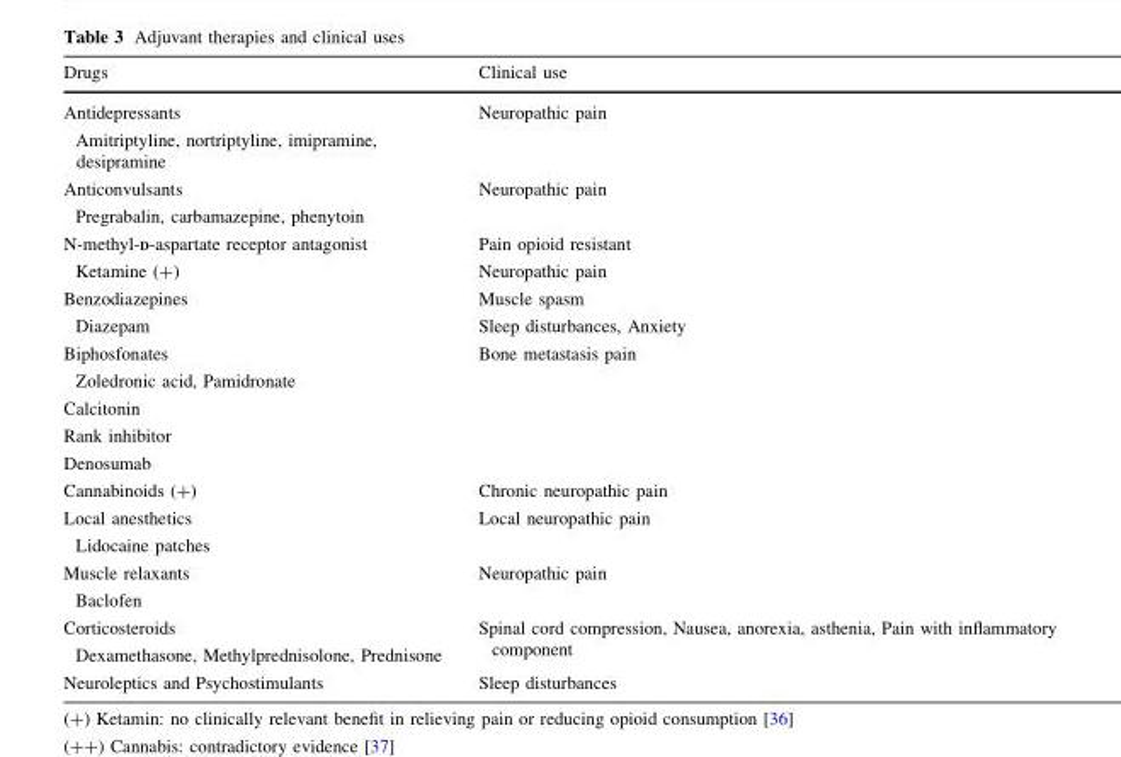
<table><thead><tr><td>Drugs</td><td>Clinical use</td></tr></thead><tbody><tr><td>Antidepressants Amitriptyline, nortriptyline, imipramine, desipramine</td><td>Neuropathic pain</td></tr><tr><td>Anticonvulsants Pregrabalin, carbamazepine, phenytoin</td><td>Neuropathic pain</td></tr><tr><td>N-methyl-D-aspartate receptor antagonist Ketamine (+)</td><td>Pain opioid resistant Neuropathic pain</td></tr><tr><td>Benzodiazepines Diazepam</td><td>Muscle spasm Sleep disturbances, Anxiety</td></tr><tr><td>Biphosfonates Zoledronic acid, Pamidronate Calcitonin Rank inhibitor Denosumab</td><td>Bone metastasis pain</td></tr><tr><td>Cannabinoids (+)</td><td>Chronic neuropathic pain</td></tr><tr><td>Local anesthetics Lidocaine patches</td><td>Local neuropathic pain</td></tr><tr><td>Muscle relaxants Baclofen</td><td>Neuropathic pain</td></tr><tr><td>Corticosteroids Dexamethasone, Methylprednisolone, Prednisone</td><td>Spinal cord compression, Nausea, anorexia, asthenia, Pain with inflammatory component</td></tr><tr><td>Neuroleptics and Psychostimulants</td><td>Sleep disturbances</td></tr></tbody></table>